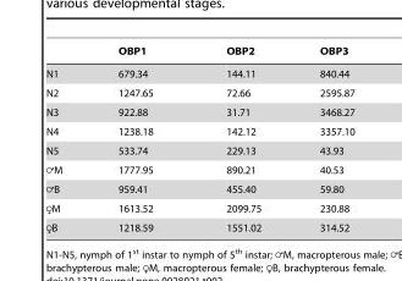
<table><thead><tr><td></td><td>OBP1</td><td>OBP2</td><td>OBP3</td></tr></thead><tbody><tr><td>N1</td><td>679.34</td><td>144.11</td><td>840.44</td></tr><tr><td>N2</td><td>1247.65</td><td>72.66</td><td>2595.87</td></tr><tr><td>N3</td><td>922.88</td><td>31.71</td><td>3468.27</td></tr><tr><td>N4</td><td>1238.18</td><td>142.12</td><td>3357.10</td></tr><tr><td>N5</td><td>533.74</td><td>229.13</td><td>43.93</td></tr><tr><td>=M</td><td>1777.95</td><td>890.21</td><td>40.53</td></tr><tr><td>=B</td><td>959.41</td><td>455.40</td><td>59.80</td></tr><tr><td>♀M</td><td>1613.52</td><td>2099.75</td><td>230.88</td></tr><tr><td>♀B</td><td>1218.59</td><td>1551.02</td><td>314.52</td></tr></tbody></table>